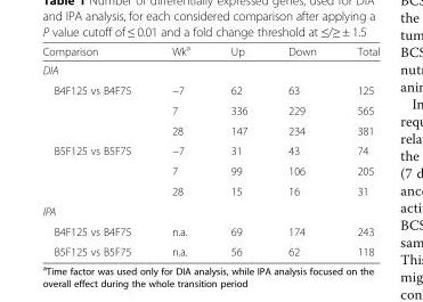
<table><thead><tr><td>Comparison</td><td>Wk<sup>a</sup></td><td>Up</td><td>Down</td><td>Total</td></tr></thead><tbody><tr><td colspan="5">DIA</td></tr><tr><td rowspan="3">B4F125 vs B4F75</td><td>−7</td><td>62</td><td>63</td><td>125</td></tr><tr><td>7</td><td>336</td><td>229</td><td>565</td></tr><tr><td>28</td><td>147</td><td>234</td><td>381</td></tr><tr><td rowspan="3">B5F125 vs B5F75</td><td>−7</td><td>31</td><td>43</td><td>74</td></tr><tr><td>7</td><td>99</td><td>106</td><td>205</td></tr><tr><td>28</td><td>15</td><td>16</td><td>31</td></tr><tr><td colspan="5">IPA</td></tr><tr><td>B4F125 vs B4F75</td><td>n.a.</td><td>69</td><td>174</td><td>243</td></tr><tr><td>B5F125 vs B5F75</td><td>n.a.</td><td>56</td><td>62</td><td>118</td></tr></tbody></table>